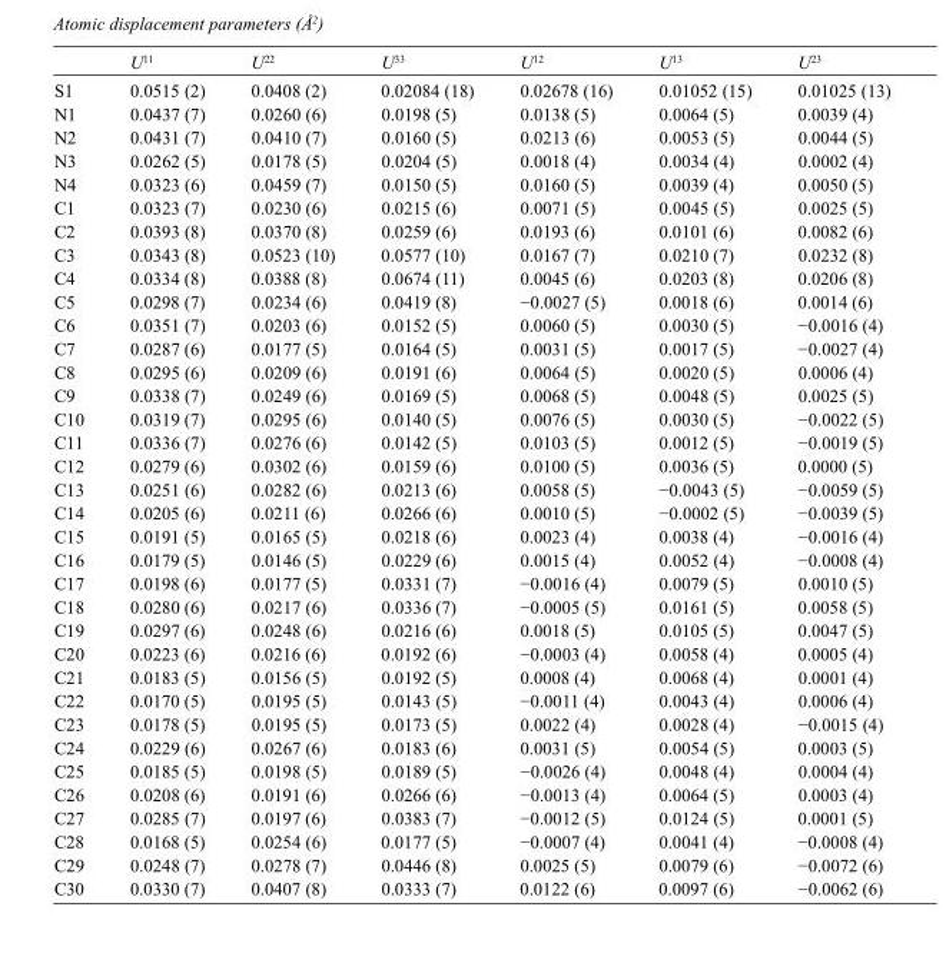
<table><thead><tr><td></td><td>U<sup>11</sup></td><td>U<sup>22</sup></td><td>U<sup>33</sup></td><td>U<sup>12</sup></td><td>U<sup>13</sup></td><td>U<sup>23</sup></td></tr></thead><tbody><tr><td>S1</td><td>0.0515 (2)</td><td>0.0408 (2)</td><td>0.02084 (18)</td><td>0.02678 (16)</td><td>0.01052 (15)</td><td>0.01025 (13)</td></tr><tr><td>N1</td><td>0.0437 (7)</td><td>0.0260 (6)</td><td>0.0198 (5)</td><td>0.0138 (5)</td><td>0.0064 (5)</td><td>0.0039 (4)</td></tr><tr><td>N2</td><td>0.0431 (7)</td><td>0.0410 (7)</td><td>0.0160 (5)</td><td>0.0213 (6)</td><td>0.0053 (5)</td><td>0.0044 (5)</td></tr><tr><td>N3</td><td>0.0262 (5)</td><td>0.0178 (5)</td><td>0.0204 (5)</td><td>0.0018 (4)</td><td>0.0034 (4)</td><td>0.0002 (4)</td></tr><tr><td>N4</td><td>0.0323 (6)</td><td>0.0459 (7)</td><td>0.0150 (5)</td><td>0.0160 (5)</td><td>0.0039 (4)</td><td>0.0050 (5)</td></tr><tr><td>C1</td><td>0.0323 (7)</td><td>0.0230 (6)</td><td>0.0215 (6)</td><td>0.0071 (5)</td><td>0.0045 (5)</td><td>0.0025 (5)</td></tr><tr><td>C2</td><td>0.0393 (8)</td><td>0.0370 (8)</td><td>0.0259 (6)</td><td>0.0193 (6)</td><td>0.0101 (6)</td><td>0.0082 (6)</td></tr><tr><td>C3</td><td>0.0343 (8)</td><td>0.0523 (10)</td><td>0.0577 (10)</td><td>0.0167 (7)</td><td>0.0210 (7)</td><td>0.0232 (8)</td></tr><tr><td>C4</td><td>0.0334 (8)</td><td>0.0388 (8)</td><td>0.0674 (11)</td><td>0.0045 (6)</td><td>0.0203 (8)</td><td>0.0206 (8)</td></tr><tr><td>C5</td><td>0.0298 (7)</td><td>0.0234 (6)</td><td>0.0419 (8)</td><td>−0.0027 (5)</td><td>0.0018 (6)</td><td>0.0014 (6)</td></tr><tr><td>C6</td><td>0.0351 (7)</td><td>0.0203 (6)</td><td>0.0152 (5)</td><td>0.0060 (5)</td><td>0.0030 (5)</td><td>−0.0016 (4)</td></tr><tr><td>C7</td><td>0.0287 (6)</td><td>0.0177 (5)</td><td>0.0164 (5)</td><td>0.0031 (5)</td><td>0.0017 (5)</td><td>−0.0027 (4)</td></tr><tr><td>C8</td><td>0.0295 (6)</td><td>0.0209 (6)</td><td>0.0191 (6)</td><td>0.0064 (5)</td><td>0.0020 (5)</td><td>0.0006 (4)</td></tr><tr><td>C9</td><td>0.0338 (7)</td><td>0.0249 (6)</td><td>0.0169 (5)</td><td>0.0068 (5)</td><td>0.0048 (5)</td><td>0.0025 (5)</td></tr><tr><td>C10</td><td>0.0319 (7)</td><td>0.0295 (6)</td><td>0.0140 (5)</td><td>0.0076 (5)</td><td>0.0030 (5)</td><td>−0.0022 (5)</td></tr><tr><td>C11</td><td>0.0336 (7)</td><td>0.0276 (6)</td><td>0.0142 (5)</td><td>0.0103 (5)</td><td>0.0012 (5)</td><td>−0.0019 (5)</td></tr><tr><td>C12</td><td>0.0279 (6)</td><td>0.0302 (6)</td><td>0.0159 (6)</td><td>0.0100 (5)</td><td>0.0036 (5)</td><td>0.0000 (5)</td></tr><tr><td>C13</td><td>0.0251 (6)</td><td>0.0282 (6)</td><td>0.0213 (6)</td><td>0.0058 (5)</td><td>−0.0043 (5)</td><td>−0.0059 (5)</td></tr><tr><td>C14</td><td>0.0205 (6)</td><td>0.0211 (6)</td><td>0.0266 (6)</td><td>0.0010 (5)</td><td>−0.0002 (5)</td><td>−0.0039 (5)</td></tr><tr><td>C15</td><td>0.0191 (5)</td><td>0.0165 (5)</td><td>0.0218 (6)</td><td>0.0023 (4)</td><td>0.0038 (4)</td><td>−0.0016 (4)</td></tr><tr><td>C16</td><td>0.0179 (5)</td><td>0.0146 (5)</td><td>0.0229 (6)</td><td>0.0015 (4)</td><td>0.0052 (4)</td><td>−0.0008 (4)</td></tr><tr><td>C17</td><td>0.0198 (6)</td><td>0.0177 (5)</td><td>0.0331 (7)</td><td>−0.0016 (4)</td><td>0.0079 (5)</td><td>0.0010 (5)</td></tr><tr><td>C18</td><td>0.0280 (6)</td><td>0.0217 (6)</td><td>0.0336 (7)</td><td>−0.0005 (5)</td><td>0.0161 (5)</td><td>0.0058 (5)</td></tr><tr><td>C19</td><td>0.0297 (6)</td><td>0.0248 (6)</td><td>0.0216 (6)</td><td>0.0018 (5)</td><td>0.0105 (5)</td><td>0.0047 (5)</td></tr><tr><td>C20</td><td>0.0223 (6)</td><td>0.0216 (6)</td><td>0.0192 (6)</td><td>−0.0003 (4)</td><td>0.0058 (4)</td><td>0.0005 (4)</td></tr><tr><td>C21</td><td>0.0183 (5)</td><td>0.0156 (5)</td><td>0.0192 (5)</td><td>0.0008 (4)</td><td>0.0068 (4)</td><td>0.0001 (4)</td></tr><tr><td>C22</td><td>0.0170 (5)</td><td>0.0195 (5)</td><td>0.0143 (5)</td><td>−0.0011 (4)</td><td>0.0043 (4)</td><td>0.0006 (4)</td></tr><tr><td>C23</td><td>0.0178 (5)</td><td>0.0195 (5)</td><td>0.0173 (5)</td><td>0.0022 (4)</td><td>0.0028 (4)</td><td>−0.0015 (4)</td></tr><tr><td>C24</td><td>0.0229 (6)</td><td>0.0267 (6)</td><td>0.0183 (6)</td><td>0.0031 (5)</td><td>0.0054 (5)</td><td>0.0003 (5)</td></tr><tr><td>C25</td><td>0.0185 (5)</td><td>0.0198 (5)</td><td>0.0189 (5)</td><td>−0.0026 (4)</td><td>0.0048 (4)</td><td>0.0004 (4)</td></tr><tr><td>C26</td><td>0.0208 (6)</td><td>0.0191 (6)</td><td>0.0266 (6)</td><td>−0.0013 (4)</td><td>0.0064 (5)</td><td>0.0003 (4)</td></tr><tr><td>C27</td><td>0.0285 (7)</td><td>0.0197 (6)</td><td>0.0383 (7)</td><td>−0.0012 (5)</td><td>0.0124 (5)</td><td>0.0001 (5)</td></tr><tr><td>C28</td><td>0.0168 (5)</td><td>0.0254 (6)</td><td>0.0177 (5)</td><td>−0.0007 (4)</td><td>0.0041 (4)</td><td>−0.0008 (4)</td></tr><tr><td>C29</td><td>0.0248 (7)</td><td>0.0278 (7)</td><td>0.0446 (8)</td><td>0.0025 (5)</td><td>0.0079 (6)</td><td>−0.0072 (6)</td></tr><tr><td>C30</td><td>0.0330 (7)</td><td>0.0407 (8)</td><td>0.0333 (7)</td><td>0.0122 (6)</td><td>0.0097 (6)</td><td>−0.0062 (6)</td></tr></tbody></table>